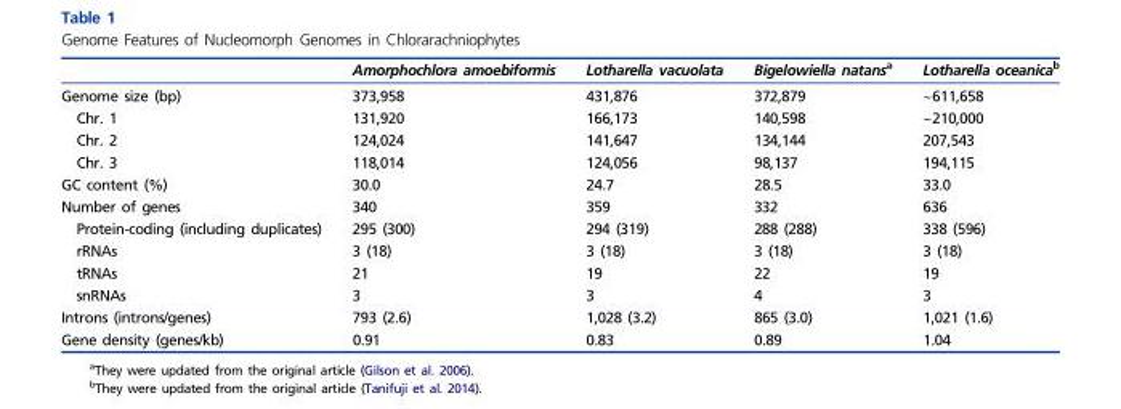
<table><thead><tr><td></td><td>Amorphochlora amoebiformis</td><td>Lotharella vacuolata</td><td>Bigelowiella natans<sup>a</sup></td><td>Lotharella oceanica<sup>b</sup></td></tr></thead><tbody><tr><td>Genome size (bp)</td><td>373,958</td><td>431,876</td><td>372,879</td><td>~611,658</td></tr><tr><td>Chr. 1</td><td>131,920</td><td>166,173</td><td>140,598</td><td>~210,000</td></tr><tr><td>Chr. 2</td><td>124,024</td><td>141,647</td><td>134,144</td><td>207,543</td></tr><tr><td>Chr. 3</td><td>118,014</td><td>124,056</td><td>98,137</td><td>194,115</td></tr><tr><td>GC content (%)</td><td>30.0</td><td>24.7</td><td>28.5</td><td>33.0</td></tr><tr><td>Number of genes</td><td>340</td><td>359</td><td>332</td><td>636</td></tr><tr><td>Protein-coding (including duplicates)</td><td>295 (300)</td><td>294 (319)</td><td>288 (288)</td><td>338 (596)</td></tr><tr><td>rRNAs</td><td>3 (18)</td><td>3 (18)</td><td>3 (18)</td><td>3 (18)</td></tr><tr><td>tRNAs</td><td>21</td><td>19</td><td>22</td><td>19</td></tr><tr><td>snRNAs</td><td>3</td><td>3</td><td>4</td><td>3</td></tr><tr><td>Introns (introns/genes)</td><td>793 (2.6)</td><td>1,028 (3.2)</td><td>865 (3.0)</td><td>1,021 (1.6)</td></tr><tr><td>Gene density (genes/kb)</td><td>0.91</td><td>0.83</td><td>0.89</td><td>1.04</td></tr></tbody></table>